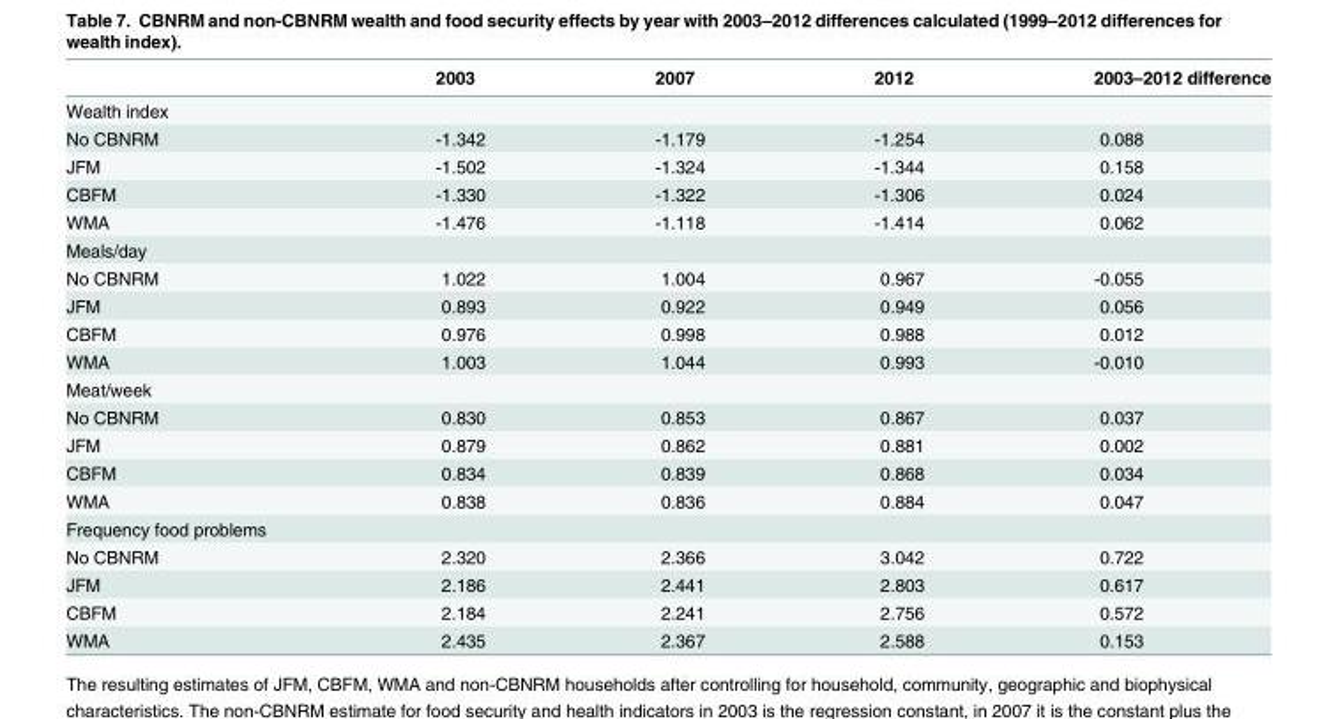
<table><thead><tr><td></td><td>2003</td><td>2007</td><td>2012</td><td>2003–2012 difference</td></tr></thead><tbody><tr><td colspan="5">Wealth index</td></tr><tr><td>No CBNRM</td><td>-1.342</td><td>-1.179</td><td>-1.254</td><td>0.088</td></tr><tr><td>JFM</td><td>-1.502</td><td>-1.324</td><td>-1.344</td><td>0.158</td></tr><tr><td>CBFM</td><td>-1.330</td><td>-1.322</td><td>-1.306</td><td>0.024</td></tr><tr><td>WMA</td><td>-1.476</td><td>-1.118</td><td>-1.414</td><td>0.062</td></tr><tr><td colspan="5">Meals/day</td></tr><tr><td>No CBNRM</td><td>1.022</td><td>1.004</td><td>0.967</td><td>-0.055</td></tr><tr><td>JFM</td><td>0.893</td><td>0.922</td><td>0.949</td><td>0.056</td></tr><tr><td>CBFM</td><td>0.976</td><td>0.998</td><td>0.988</td><td>0.012</td></tr><tr><td>WMA</td><td>1.003</td><td>1.044</td><td>0.993</td><td>-0.010</td></tr><tr><td colspan="5">Meat/week</td></tr><tr><td>No CBNRM</td><td>0.830</td><td>0.853</td><td>0.867</td><td>0.037</td></tr><tr><td>JFM</td><td>0.879</td><td>0.862</td><td>0.881</td><td>0.002</td></tr><tr><td>CBFM</td><td>0.834</td><td>0.839</td><td>0.868</td><td>0.034</td></tr><tr><td>WMA</td><td>0.838</td><td>0.836</td><td>0.884</td><td>0.047</td></tr><tr><td colspan="5">Frequency food problems</td></tr><tr><td>No CBNRM</td><td>2.320</td><td>2.366</td><td>3.042</td><td>0.722</td></tr><tr><td>JFM</td><td>2.186</td><td>2.441</td><td>2.803</td><td>0.617</td></tr><tr><td>CBFM</td><td>2.184</td><td>2.241</td><td>2.756</td><td>0.572</td></tr><tr><td>WMA</td><td>2.435</td><td>2.367</td><td>2.588</td><td>0.153</td></tr></tbody></table>